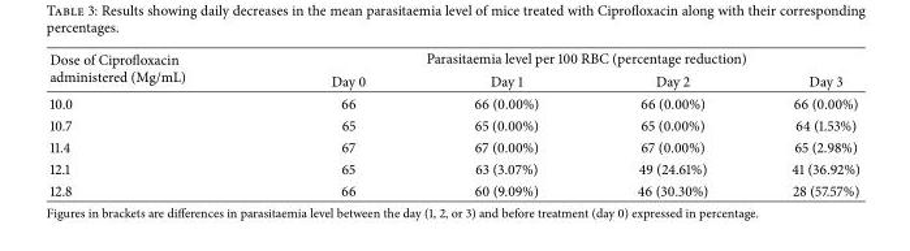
<table><thead><tr><td rowspan="2">Dose of Ciprofloxacin administered (Mg/mL)</td><td colspan="4">Parasitaemia level per 100 RBC (percentage reduction)</td></tr><tr><td>Day 0</td><td>Day 1</td><td>Day 2</td><td>Day 3</td></tr></thead><tbody><tr><td>10.0</td><td>66</td><td>66 (0.00%)</td><td>66 (0.00%)</td><td>66 (0.00%)</td></tr><tr><td>10.7</td><td>65</td><td>65 (0.00%)</td><td>65 (0.00%)</td><td>64 (1.53%)</td></tr><tr><td>11.4</td><td>67</td><td>67 (0.00%)</td><td>67 (0.00%)</td><td>65 (2.98%)</td></tr><tr><td>12.1</td><td>65</td><td>63 (3.07%)</td><td>49 (24.61%)</td><td>41 (36.92%)</td></tr><tr><td>12.8</td><td>66</td><td>60 (9.09%)</td><td>46 (30.30%)</td><td>28 (57.57%)</td></tr></tbody></table>